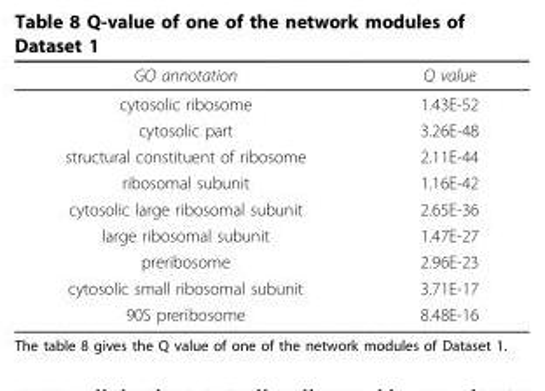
<table><thead><tr><td>GO annotation</td><td>Q value</td></tr></thead><tbody><tr><td>cytosolic ribosome</td><td>1.43E-52</td></tr><tr><td>cytosolic part</td><td>3.26E-48</td></tr><tr><td>structural constituent of ribosome</td><td>2.11E-44</td></tr><tr><td>ribosomal subunit</td><td>1.16E-42</td></tr><tr><td>cytosolic large ribosomal subunit</td><td>2.65E-36</td></tr><tr><td>large ribosomal subunit</td><td>1.47E-27</td></tr><tr><td>preribosome</td><td>2.96E-23</td></tr><tr><td>cytosolic small ribosomal subunit</td><td>3.71E-17</td></tr><tr><td>90S preribosome</td><td>8.48E-16</td></tr></tbody></table>